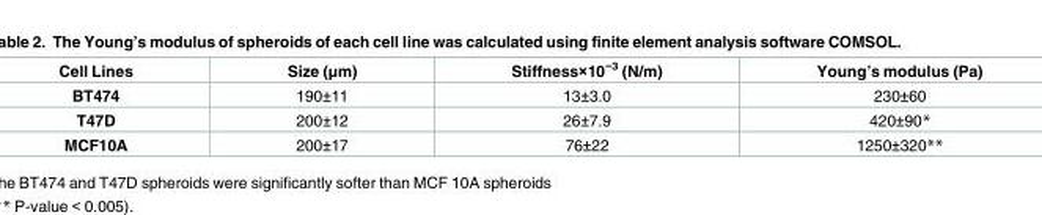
<table><thead><tr><td>Cell Lines</td><td>Size (μm)</td><td>Stiffness×10<sup>−3</sup> (N/m)</td><td>Young’s modulus (Pa)</td></tr></thead><tbody><tr><td>BT474</td><td>190±11</td><td>13±3.0</td><td>230±60</td></tr><tr><td>T47D</td><td>200±12</td><td>26±7.9</td><td>420±90*</td></tr><tr><td>MCF10A</td><td>200±17</td><td>76±22</td><td>1250±320**</td></tr></tbody></table>